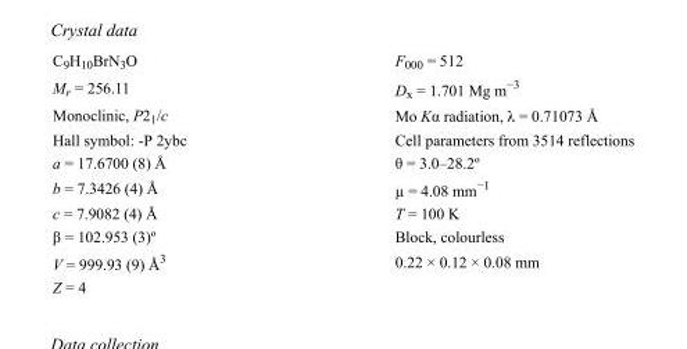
<table><tbody><tr><td>C<sub>9</sub>H<sub>10</sub>BrN<sub>3</sub>O</td><td>F000 = 512</td></tr><tr><td>M<sub>r</sub> = 256.11</td><td>D<sub>x</sub> = 1.701 Mg m<sup>−3</sup></td></tr><tr><td>Monoclinic, P2<sub>1</sub>/c</td><td>Mo Kα radiation, λ = 0.71073 Å</td></tr><tr><td>Hall symbol: -P 2ybc</td><td>Cell parameters from 3514 reflections</td></tr><tr><td>a = 17.6700 (8) Å</td><td>θ = 3.0–28.2º</td></tr><tr><td>b = 7.3426 (4) Å</td><td>µ = 4.08 mm<sup>−1</sup></td></tr><tr><td>c = 7.9082 (4) Å</td><td>T = 100 K</td></tr><tr><td>β = 102.953 (3)º</td><td>Block, colourless</td></tr><tr><td>V = 999.93 (9) Å<sup>3</sup></td><td>0.22 × 0.12 × 0.08 mm</td></tr><tr><td>Z = 4</td><td></td></tr></tbody></table>